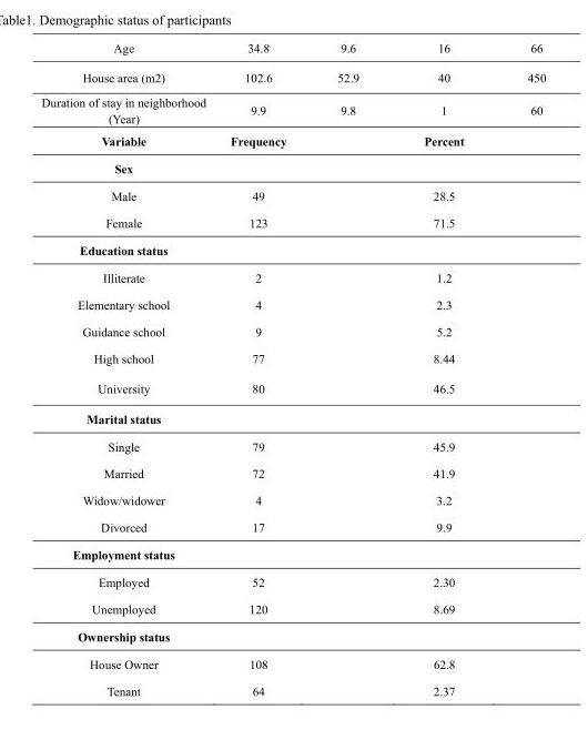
<table><tbody><tr><td>Age</td><td>34.8</td><td>9.6</td><td>16</td><td>66</td></tr><tr><td>House area (m2)</td><td>102.6</td><td>52.9</td><td>40</td><td>450</td></tr><tr><td>Duration of stay in neighborhood (Year)</td><td>9.9</td><td>9.8</td><td>1</td><td>60</td></tr><tr><td>Variable</td><td>Frequency</td><td></td><td>Percent</td><td></td></tr><tr><td colspan="5">Sex</td></tr><tr><td>Male</td><td>49</td><td></td><td>28.5</td><td></td></tr><tr><td>Female</td><td>123</td><td></td><td>71.5</td><td></td></tr><tr><td colspan="5">Education status</td></tr><tr><td>Illiterate</td><td>2</td><td></td><td>1.2</td><td></td></tr><tr><td>Elementary school</td><td>4</td><td></td><td>2.3</td><td></td></tr><tr><td>Guidance school</td><td>9</td><td></td><td>5.2</td><td></td></tr><tr><td>High school</td><td>77</td><td></td><td>8.44</td><td></td></tr><tr><td>University</td><td>80</td><td></td><td>46.5</td><td></td></tr><tr><td colspan="5">Marital status</td></tr><tr><td>Single</td><td>79</td><td></td><td>45.9</td><td></td></tr><tr><td>Married</td><td>72</td><td></td><td>41.9</td><td></td></tr><tr><td>Widow/widower</td><td>4</td><td></td><td>3.2</td><td></td></tr><tr><td>Divorced</td><td>17</td><td></td><td>9.9</td><td></td></tr><tr><td colspan="5">Employment status</td></tr><tr><td>Employed</td><td>52</td><td></td><td>2.30</td><td></td></tr><tr><td>Unemployed</td><td>120</td><td></td><td>8.69</td><td></td></tr><tr><td colspan="5">Ownership status</td></tr><tr><td>House Owner</td><td>108</td><td></td><td>62.8</td><td></td></tr><tr><td>Tenant</td><td>64</td><td></td><td>2.37</td><td></td></tr></tbody></table>